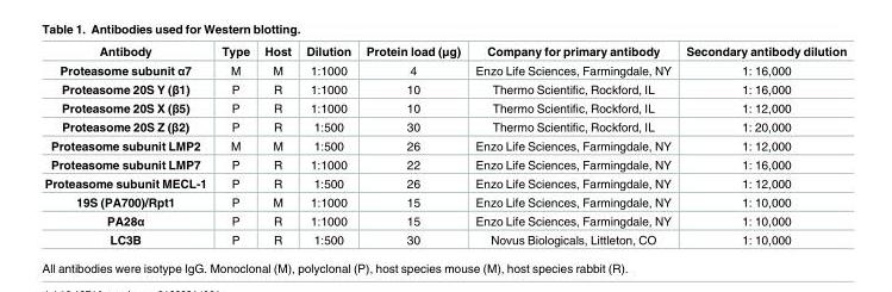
<table><thead><tr><td>Antibody</td><td>Type</td><td>Host</td><td>Dilution</td><td>Protein load (μg)</td><td>Company for primary antibody</td><td>Secondary antibody dilution</td></tr></thead><tbody><tr><td>Proteasome subunit α7</td><td>M</td><td>M</td><td>1:1000</td><td>4</td><td>Enzo Life Sciences, Farmingdale, NY</td><td>1: 16,000</td></tr><tr><td>Proteasome 20S Y (β1)</td><td>P</td><td>R</td><td>1:1000</td><td>10</td><td>Thermo Scientific, Rockford, IL</td><td>1: 16,000</td></tr><tr><td>Proteasome 20S X (β5)</td><td>P</td><td>R</td><td>1:1000</td><td>10</td><td>Thermo Scientific, Rockford, IL</td><td>1: 12,000</td></tr><tr><td>Proteasome 20S Z (β2)</td><td>P</td><td>R</td><td>1:500</td><td>30</td><td>Thermo Scientific, Rockford, IL</td><td>1: 20,000</td></tr><tr><td>Proteasome subunit LMP2</td><td>M</td><td>M</td><td>1:500</td><td>26</td><td>Enzo Life Sciences, Farmingdale, NY</td><td>1: 12,000</td></tr><tr><td>Proteasome subunit LMP7</td><td>P</td><td>R</td><td>1:1000</td><td>22</td><td>Enzo Life Sciences, Farmingdale, NY</td><td>1: 16,000</td></tr><tr><td>Proteasome subunit MECL-1</td><td>P</td><td>R</td><td>1:500</td><td>26</td><td>Enzo Life Sciences, Farmingdale, NY</td><td>1: 12,000</td></tr><tr><td>19S (PA700)/Rpt1</td><td>P</td><td>M</td><td>1:1000</td><td>15</td><td>Enzo Life Sciences, Farmingdale, NY</td><td>1: 10,000</td></tr><tr><td>PA28α</td><td>P</td><td>R</td><td>1:1000</td><td>15</td><td>Enzo Life Sciences, Farmingdale, NY</td><td>1: 10,000</td></tr><tr><td>LC3B</td><td>P</td><td>R</td><td>1:500</td><td>30</td><td>Novus Biologicals, Littleton, CO</td><td>1: 10,000</td></tr></tbody></table>